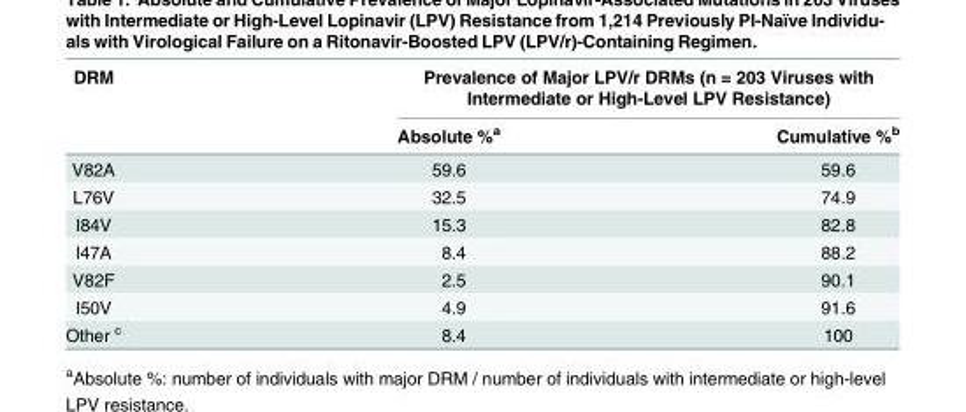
<table><thead><tr><td rowspan="2">DRM</td><td colspan="2">Prevalence of Major LPV/r DRMs (n = 203 Viruses with Intermediate or High-Level LPV Resistance)</td></tr><tr><td>Absolute %<sup>a</sup></td><td>Cumulative %<sup>b</sup></td></tr></thead><tbody><tr><td>V82A</td><td>59.6</td><td>59.6</td></tr><tr><td>L76V</td><td>32.5</td><td>74.9</td></tr><tr><td>I84V</td><td>15.3</td><td>82.8</td></tr><tr><td>I47A</td><td>8.4</td><td>88.2</td></tr><tr><td>V82F</td><td>2.5</td><td>90.1</td></tr><tr><td>I50V</td><td>4.9</td><td>91.6</td></tr><tr><td>Other <sup>c</sup></td><td>8.4</td><td>100</td></tr></tbody></table>